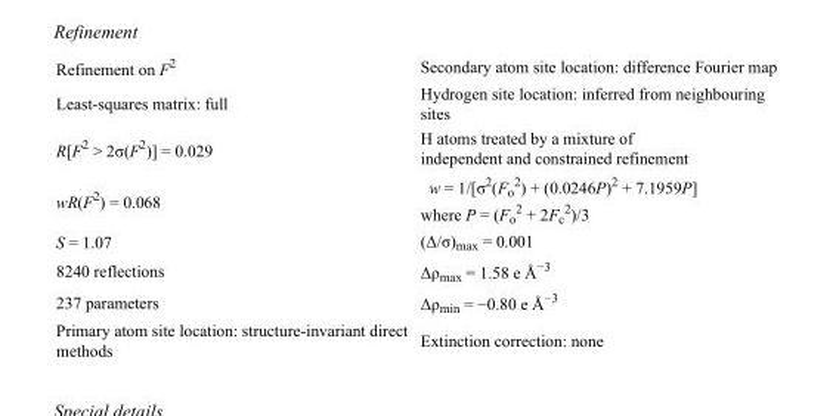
<table><tbody><tr><td>Refinement on F<sup>2</sup></td><td>Secondary atom site location: difference Fourier map</td></tr><tr><td>Least-squares matrix: full</td><td>Hydrogen site location: inferred from neighbouring sites</td></tr><tr><td>R[F<sup>2</sup> &gt; 2σ(F<sup>2</sup>)] = 0.029</td><td>H atoms treated by a mixture of independent and constrained refinement</td></tr><tr><td>wR(F<sup>2</sup>) = 0.068</td><td>w = 1/[σ<sup>2</sup>(F<sub>o</sub> <sup>2</sup>) + (0.0246P)<sup>2</sup> + 7.1959P] where P = (F<sub>o</sub> <sup>2</sup> + 2F<sub>c</sub> <sup>2</sup>)/3</td></tr><tr><td>S = 1.07</td><td>(Δ/σ)<sub>max</sub> = 0.001</td></tr><tr><td>8240 reflections</td><td>Δρ<sub>max</sub> = 1.58 e Å<sup>−3</sup></td></tr><tr><td>237 parameters</td><td>Δρ<sub>min</sub> = −0.80 e Å<sup>−3</sup></td></tr><tr><td>Primary atom site location: structure-invariant direct methods</td><td>Extinction correction: none</td></tr></tbody></table>